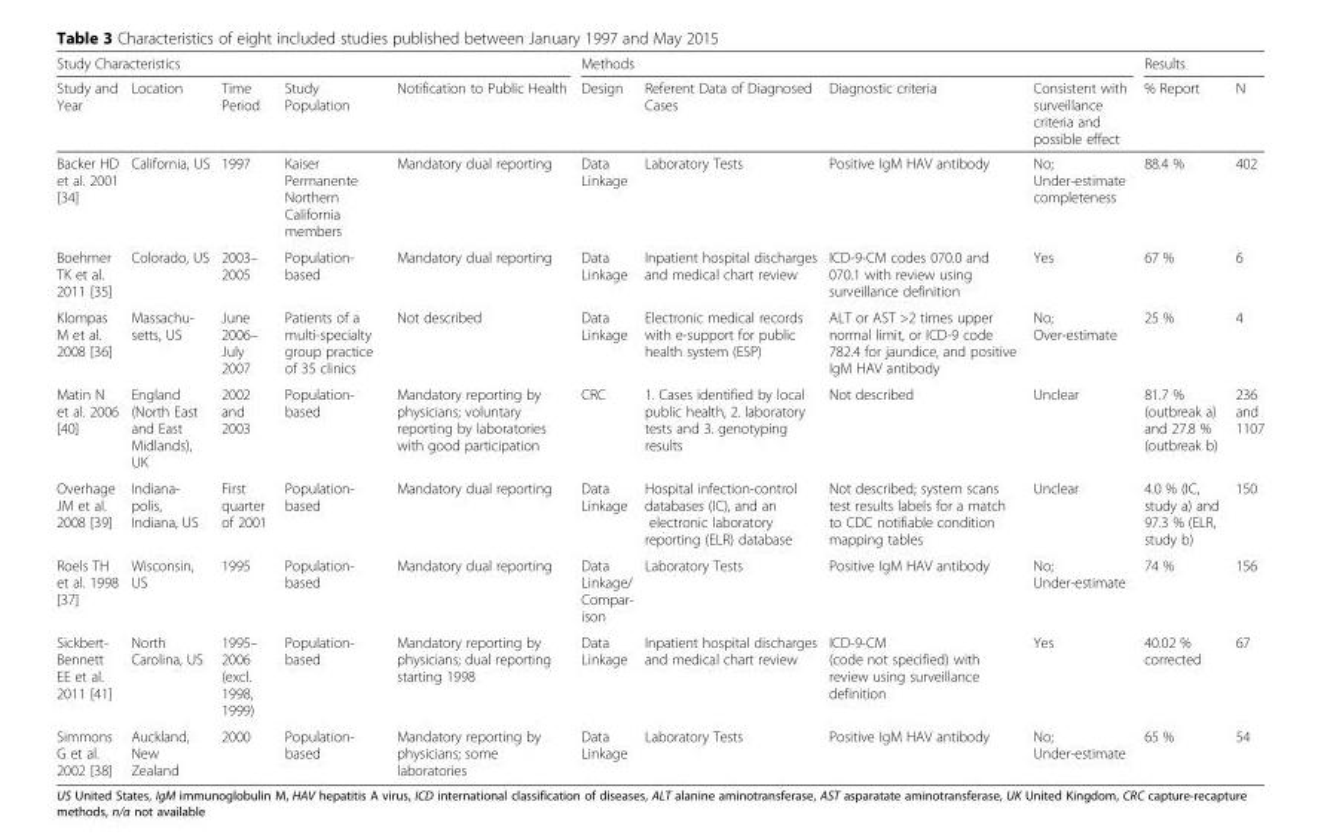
<table><thead><tr><td colspan="5">Study Characteristics</td><td colspan="4">Methods</td><td colspan="2">Results</td></tr><tr><td>Study and Year</td><td>Location</td><td>Time Period</td><td>Study Population</td><td>Notification to Public Health</td><td>Design</td><td>Referent Data of Diagnosed Cases</td><td>Diagnostic criteria</td><td>Consistent with surveillance criteria and possible effect</td><td>% Report</td><td>N</td></tr></thead><tbody><tr><td>Backer HD et al. 2001 [34]</td><td>California, US</td><td>1997</td><td>Kaiser Permanente Northern California members</td><td>Mandatory dual reporting</td><td>Data Linkage</td><td>Laboratory Tests</td><td>Positive IgM HAV antibody</td><td>No; Under-estimate completeness</td><td>88.4 %</td><td>402</td></tr><tr><td>Boehmer TK et al. 2011 [35]</td><td>Colorado, US</td><td>2003– 2005</td><td>Population- based</td><td>Mandatory dual reporting</td><td>Data Linkage</td><td>Inpatient hospital discharges and medical chart review</td><td>ICD-9-CM codes 070.0 and 070.1 with review using surveillance definition</td><td>Yes</td><td>67 %</td><td>6</td></tr><tr><td>Klompas M et al. 2008 [36]</td><td>Massachu- setts, US</td><td>June 2006– July 2007</td><td>Patients of a multi-specialty group practice of 35 clinics</td><td>Not described</td><td>Data Linkage</td><td>Electronic medical records with e-support for public health system (ESP)</td><td>ALT or AST &gt;2 times upper normal limit, or ICD-9 code 782.4 for jaundice, and positive IgM HAV antibody</td><td>No; Over-estimate</td><td>25 %</td><td>4</td></tr><tr><td>Matin N et al. 2006 [40]</td><td>England (North East and East Midlands), UK</td><td>2002 and 2003</td><td>Population- based</td><td>Mandatory reporting by physicians; voluntary reporting by laboratories with good participation</td><td>CRC</td><td>1. Cases identified by local public health, 2. laboratory tests and 3. genotyping results</td><td>Not described</td><td>Unclear</td><td>81.7 % (outbreak a) and 27.8 % (outbreak b)</td><td>236 and 1107</td></tr><tr><td>Overhage JM et al. 2008 [39]</td><td>Indiana- polis, Indiana, US</td><td>First quarter of 2001</td><td>Population- based</td><td>Mandatory dual reporting</td><td>Data Linkage</td><td>Hospital infection-control databases (IC), and an electronic laboratory reporting (ELR) database</td><td>Not described; system scans test results labels for a match to CDC notifiable condition mapping tables</td><td>Unclear</td><td>4.0 % (IC, study a) and 97.3 % (ELR, study b)</td><td>150</td></tr><tr><td>Roels TH et al. 1998 [37]</td><td>Wisconsin, US</td><td>1995</td><td>Population- based</td><td>Mandatory dual reporting</td><td>Data Linkage/ Compar- ison</td><td>Laboratory Tests</td><td>Positive IgM HAV antibody</td><td>No; Under-estimate</td><td>74 %</td><td>156</td></tr><tr><td>Sickbert- Bennett EE et al. 2011 [41]</td><td>North Carolina, US</td><td>1995– 2006 (excl. 1998, 1999)</td><td>Population- based</td><td>Mandatory reporting by physicians; dual reporting starting 1998</td><td>Data Linkage</td><td>Inpatient hospital discharges and medical chart review</td><td>ICD-9-CM (code not specified) with review using surveillance definition</td><td>Yes</td><td>40.02 % corrected</td><td>67</td></tr><tr><td>Simmons G et al. 2002 [38]</td><td>Auckland, New Zealand</td><td>2000</td><td>Population- based</td><td>Mandatory reporting by physicians; some laboratories</td><td>Data Linkage</td><td>Laboratory Tests</td><td>Positive IgM HAV antibody</td><td>No; Under-estimate</td><td>65 %</td><td>54</td></tr></tbody></table>